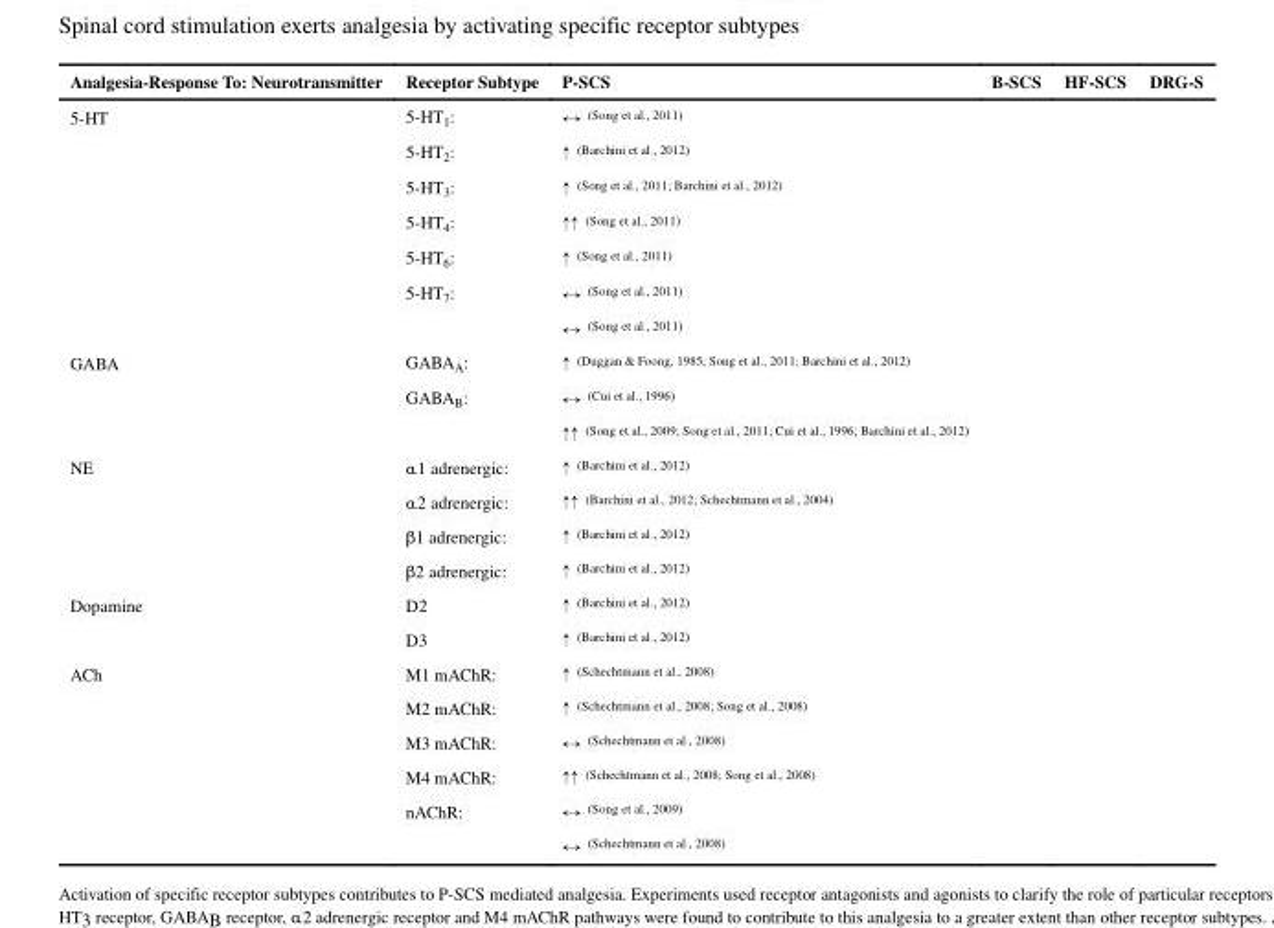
<table><thead><tr><td>Analgesia-Response To: Neurotransmitter</td><td>Receptor Subtype</td><td>P-SCS</td><td>B-SCS</td><td>HF-SCS</td><td>DRG-S</td></tr></thead><tbody><tr><td rowspan="7">5-HT</td><td>5-HT1:</td><td>↔ (Song et al., 2011)</td><td></td><td></td><td></td></tr><tr><td>5-HT2:</td><td>↑ (Barchini et al., 2012)</td><td></td><td></td><td></td></tr><tr><td>5-HT3:</td><td>↑ (Song et al., 2011; Barchini et al., 2012)</td><td></td><td></td><td></td></tr><tr><td>5-HT4:</td><td>↑↑ (Song et al., 2011)</td><td></td><td></td><td></td></tr><tr><td>5-HT6:</td><td>↑ (Song et al., 2011)</td><td></td><td></td><td></td></tr><tr><td>5-HT7:</td><td>↔ (Song et al., 2011)</td><td></td><td></td><td></td></tr><tr><td></td><td>↔ (Song et al., 2011)</td><td></td><td></td><td></td></tr><tr><td rowspan="3">GABA</td><td>GABAA:</td><td>↑ (Duggan &amp; Foong, 1985; Song et al., 2011; Barchini et al., 2012)</td><td></td><td></td><td></td></tr><tr><td>GABAB:</td><td>↔ (Cui et al., 1996)</td><td></td><td></td><td></td></tr><tr><td></td><td>↑↑ (Song et al., 2009; Song et al., 2011; Cui et al., 1996; Barchini et al., 2012)</td><td></td><td></td><td></td></tr><tr><td rowspan="4">NE</td><td>α1 adrenergic:</td><td>↑ (Barchini et al., 2012)</td><td></td><td></td><td></td></tr><tr><td>α2 adrenergic:</td><td>↑↑ (Barchini et al., 2012; Schechtmann et al., 2004)</td><td></td><td></td><td></td></tr><tr><td>β1 adrenergic:</td><td>↑ (Barchini et al., 2012)</td><td></td><td></td><td></td></tr><tr><td>β2 adrenergic:</td><td>↑ (Barchini et al., 2012)</td><td></td><td></td><td></td></tr><tr><td rowspan="2">Dopamine</td><td>D2</td><td>↑ (Barchini et al., 2012)</td><td></td><td></td><td></td></tr><tr><td>D3</td><td>↑ (Barchini et al., 2012)</td><td></td><td></td><td></td></tr><tr><td rowspan="6">ACh</td><td>M1 mAChR:</td><td>↑ (Schechtmann et al., 2008)</td><td></td><td></td><td></td></tr><tr><td>M2 mAChR:</td><td>↑ (Schechtmann et al., 2008; Song et al., 2008)</td><td></td><td></td><td></td></tr><tr><td>M3 mAChR:</td><td>↔ (Schechtmann et al., 2008)</td><td></td><td></td><td></td></tr><tr><td>M4 mAChR:</td><td>↑↑ (Schechtmann et al., 2008; Song et al., 2008)</td><td></td><td></td><td></td></tr><tr><td>nAChR:</td><td>↔ (Song et al., 2009)</td><td></td><td></td><td></td></tr><tr><td></td><td>↔ (Schechtmann et al., 2008)</td><td></td><td></td><td></td></tr></tbody></table>